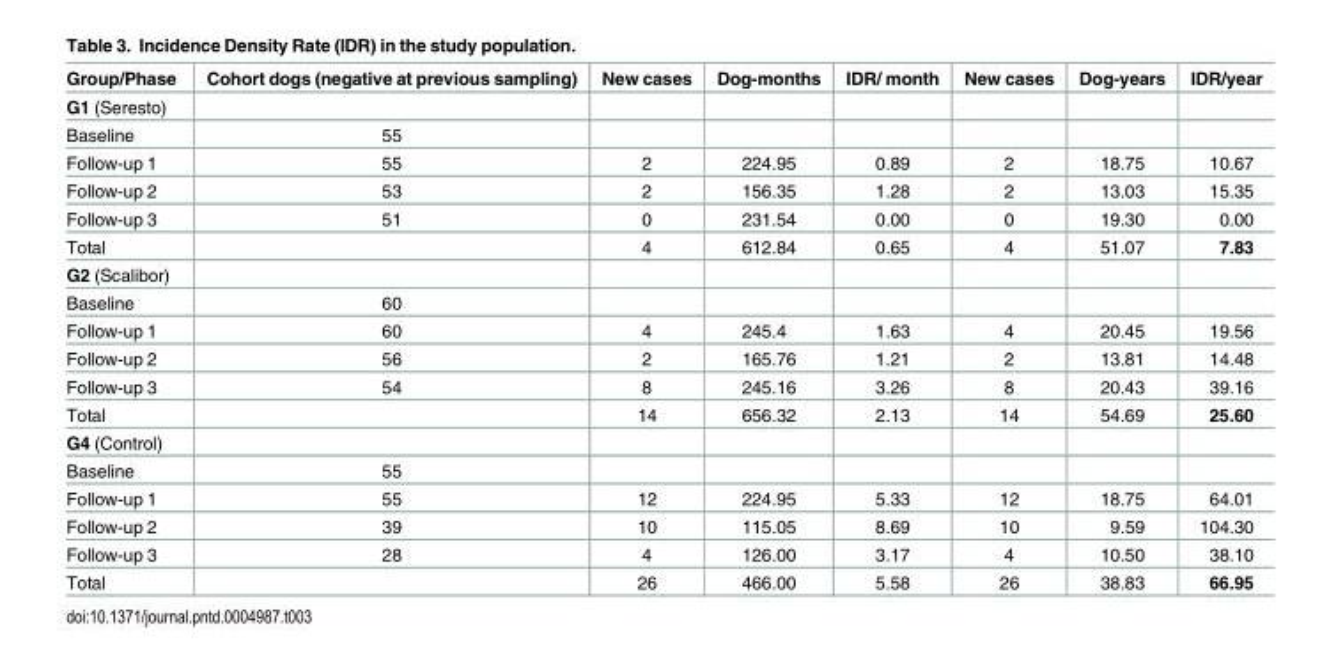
<table><thead><tr><td>Group/Phase</td><td>Cohort dogs (negative at previous sampling)</td><td>New cases</td><td>Dog-months</td><td>IDR/ month</td><td>New cases</td><td>Dog-years</td><td>IDR/year</td></tr></thead><tbody><tr><td colspan="8">G1 (Seresto)</td></tr><tr><td>Baseline</td><td>55</td><td></td><td></td><td></td><td></td><td></td><td></td></tr><tr><td>Follow-up 1</td><td>55</td><td>2</td><td>224.95</td><td>0.89</td><td>2</td><td>18.75</td><td>10.67</td></tr><tr><td>Follow-up 2</td><td>53</td><td>2</td><td>156.35</td><td>1.28</td><td>2</td><td>13.03</td><td>15.35</td></tr><tr><td>Follow-up 3</td><td>51</td><td>0</td><td>231.54</td><td>0.00</td><td>0</td><td>19.30</td><td>0.00</td></tr><tr><td>Total</td><td></td><td>4</td><td>612.84</td><td>0.65</td><td>4</td><td>51.07</td><td>7.83</td></tr><tr><td colspan="8">G2 (Scalibor)</td></tr><tr><td>Baseline</td><td>60</td><td></td><td></td><td></td><td></td><td></td><td></td></tr><tr><td>Follow-up 1</td><td>60</td><td>4</td><td>245.4</td><td>1.63</td><td>4</td><td>20.45</td><td>19.56</td></tr><tr><td>Follow-up 2</td><td>56</td><td>2</td><td>165.76</td><td>1.21</td><td>2</td><td>13.81</td><td>14.48</td></tr><tr><td>Follow-up 3</td><td>54</td><td>8</td><td>245.16</td><td>3.26</td><td>8</td><td>20.43</td><td>39.16</td></tr><tr><td>Total</td><td></td><td>14</td><td>656.32</td><td>2.13</td><td>14</td><td>54.69</td><td>25.60</td></tr><tr><td colspan="8">G4 (Control)</td></tr><tr><td>Baseline</td><td>55</td><td></td><td></td><td></td><td></td><td></td><td></td></tr><tr><td>Follow-up 1</td><td>55</td><td>12</td><td>224.95</td><td>5.33</td><td>12</td><td>18.75</td><td>64.01</td></tr><tr><td>Follow-up 2</td><td>39</td><td>10</td><td>115.05</td><td>8.69</td><td>10</td><td>9.59</td><td>104.30</td></tr><tr><td>Follow-up 3</td><td>28</td><td>4</td><td>126.00</td><td>3.17</td><td>4</td><td>10.50</td><td>38.10</td></tr><tr><td>Total</td><td></td><td>26</td><td>466.00</td><td>5.58</td><td>26</td><td>38.83</td><td>66.95</td></tr></tbody></table>